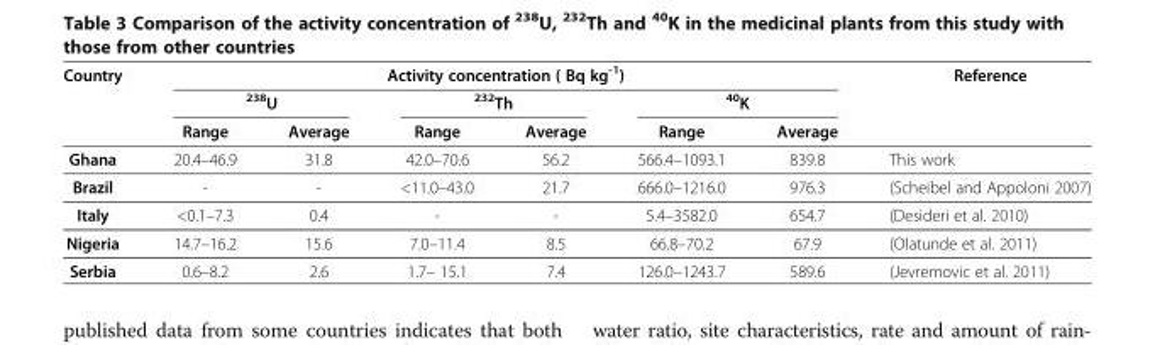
<table><thead><tr><td rowspan="3">Country</td><td colspan="6">Activity concentration ( Bq kg<sup>-1</sup>)</td><td rowspan="3">Reference</td></tr><tr><td colspan="2"><sup>238</sup>U</td><td colspan="2"><sup>232</sup>Th</td><td colspan="2"><sup>40</sup>K</td></tr><tr><td>Range</td><td>Average</td><td>Range</td><td>Average</td><td>Range</td><td>Average</td></tr></thead><tbody><tr><td>Ghana</td><td>20.4–46.9</td><td>31.8</td><td>42.0–70.6</td><td>56.2</td><td>566.4–1093.1</td><td>839.8</td><td>This work</td></tr><tr><td>Brazil</td><td>-</td><td>-</td><td>&lt;11.0–43.0</td><td>21.7</td><td>666.0–1216.0</td><td>976.3</td><td>(Scheibel and Appoloni 2007)</td></tr><tr><td>Italy</td><td>&lt;0.1–7.3</td><td>0.4</td><td>-</td><td>-</td><td>5.4–3582.0</td><td>654.7</td><td>(Desideri et al. 2010)</td></tr><tr><td>Nigeria</td><td>14.7–16.2</td><td>15.6</td><td>7.0–11.4</td><td>8.5</td><td>66.8–70.2</td><td>67.9</td><td>(Olatunde et al. 2011)</td></tr><tr><td>Serbia</td><td>0.6–8.2</td><td>2.6</td><td>1.7– 15.1</td><td>7.4</td><td>126.0–1243.7</td><td>589.6</td><td>(Jevremovic et al. 2011)</td></tr></tbody></table>